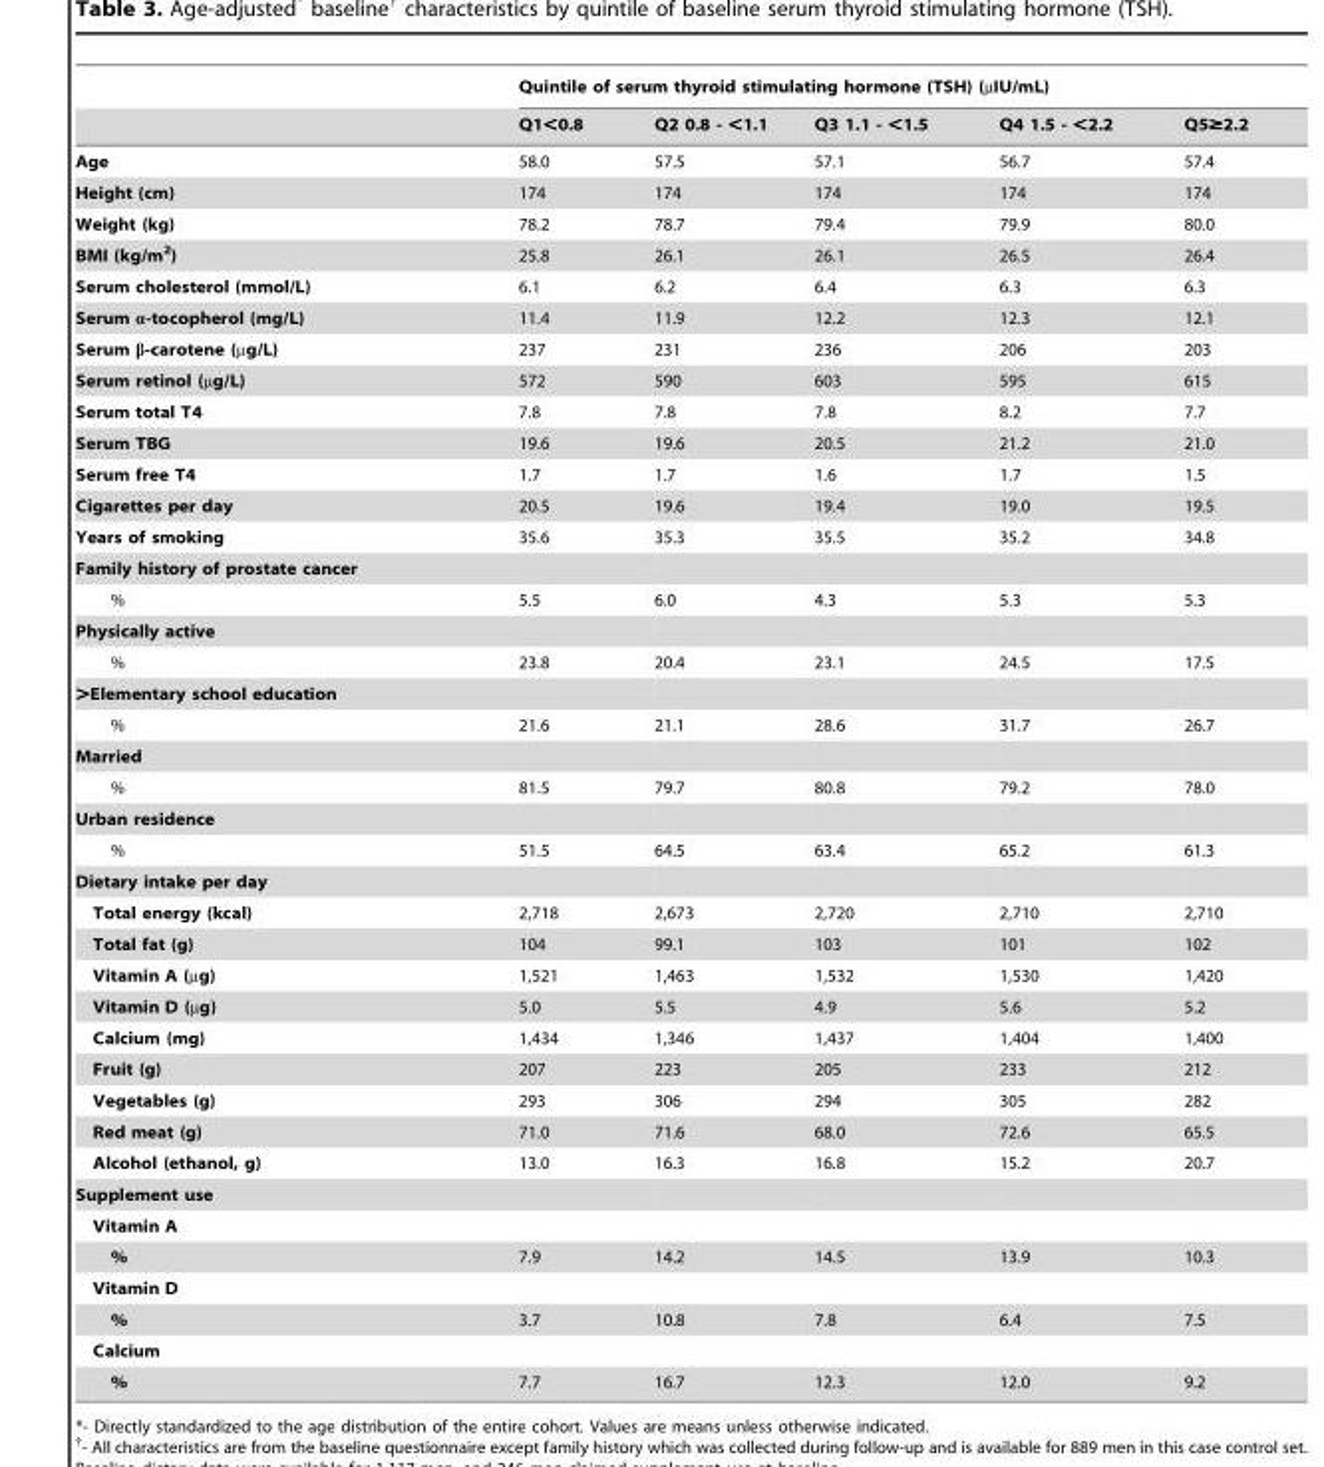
<table><thead><tr><td rowspan="2"></td><td colspan="5">Quintile of serum thyroid stimulating hormone (TSH) (µIU/mL)</td></tr><tr><td>Q1&lt;0.8</td><td>Q2 0.8 - &lt;1.1</td><td>Q3 1.1 - &lt;1.5</td><td>Q4 1.5 - &lt;2.2</td><td>Q5≥2.2</td></tr></thead><tbody><tr><td>Age</td><td>58.0</td><td>57.5</td><td>57.1</td><td>56.7</td><td>57.4</td></tr><tr><td>Height (cm)</td><td>174</td><td>174</td><td>174</td><td>174</td><td>174</td></tr><tr><td>Weight (kg)</td><td>78.2</td><td>78.7</td><td>79.4</td><td>79.9</td><td>80.0</td></tr><tr><td>BMI (kg/m<sup>2</sup>)</td><td>25.8</td><td>26.1</td><td>26.1</td><td>26.5</td><td>26.4</td></tr><tr><td>Serum cholesterol (mmol/L)</td><td>6.1</td><td>6.2</td><td>6.4</td><td>6.3</td><td>6.3</td></tr><tr><td>Serum α-tocopherol (mg/L)</td><td>11.4</td><td>11.9</td><td>12.2</td><td>12.3</td><td>12.1</td></tr><tr><td>Serum β-carotene (µg/L)</td><td>237</td><td>231</td><td>236</td><td>206</td><td>203</td></tr><tr><td>Serum retinol (µg/L)</td><td>572</td><td>590</td><td>603</td><td>595</td><td>615</td></tr><tr><td>Serum total T4</td><td>7.8</td><td>7.8</td><td>7.8</td><td>8.2</td><td>7.7</td></tr><tr><td>Serum TBG</td><td>19.6</td><td>19.6</td><td>20.5</td><td>21.2</td><td>21.0</td></tr><tr><td>Serum free T4</td><td>1.7</td><td>1.7</td><td>1.6</td><td>1.7</td><td>1.5</td></tr><tr><td>Cigarettes per day</td><td>20.5</td><td>19.6</td><td>19.4</td><td>19.0</td><td>19.5</td></tr><tr><td>Years of smoking</td><td>35.6</td><td>35.3</td><td>35.5</td><td>35.2</td><td>34.8</td></tr><tr><td colspan="6">Family history of prostate cancer</td></tr><tr><td>%</td><td>5.5</td><td>6.0</td><td>4.3</td><td>5.3</td><td>5.3</td></tr><tr><td colspan="6">Physically active</td></tr><tr><td>%</td><td>23.8</td><td>20.4</td><td>23.1</td><td>24.5</td><td>17.5</td></tr><tr><td colspan="6">&gt;Elementary school education</td></tr><tr><td>%</td><td>21.6</td><td>21.1</td><td>28.6</td><td>31.7</td><td>26.7</td></tr><tr><td colspan="6">Married</td></tr><tr><td>%</td><td>81.5</td><td>79.7</td><td>80.8</td><td>79.2</td><td>78.0</td></tr><tr><td colspan="6">Urban residence</td></tr><tr><td>%</td><td>51.5</td><td>64.5</td><td>63.4</td><td>65.2</td><td>61.3</td></tr><tr><td colspan="6">Dietary intake per day</td></tr><tr><td>Total energy (kcal)</td><td>2,718</td><td>2,673</td><td>2,720</td><td>2,710</td><td>2,710</td></tr><tr><td>Total fat (g)</td><td>104</td><td>99.1</td><td>103</td><td>101</td><td>102</td></tr><tr><td>Vitamin A (µg)</td><td>1,521</td><td>1,463</td><td>1,532</td><td>1,530</td><td>1,420</td></tr><tr><td>Vitamin D (µg)</td><td>5.0</td><td>5.5</td><td>4.9</td><td>5.6</td><td>5.2</td></tr><tr><td>Calcium (mg)</td><td>1,434</td><td>1,346</td><td>1,437</td><td>1,404</td><td>1,400</td></tr><tr><td>Fruit (g)</td><td>207</td><td>223</td><td>205</td><td>233</td><td>212</td></tr><tr><td>Vegetables (g)</td><td>293</td><td>306</td><td>294</td><td>305</td><td>282</td></tr><tr><td>Red meat (g)</td><td>71.0</td><td>71.6</td><td>68.0</td><td>72.6</td><td>65.5</td></tr><tr><td>Alcohol (ethanol, g)</td><td>13.0</td><td>16.3</td><td>16.8</td><td>15.2</td><td>20.7</td></tr><tr><td colspan="6">Supplement use</td></tr><tr><td colspan="6">Vitamin A</td></tr><tr><td>%</td><td>7.9</td><td>14.2</td><td>14.5</td><td>13.9</td><td>10.3</td></tr><tr><td colspan="6">Vitamin D</td></tr><tr><td>%</td><td>3.7</td><td>10.8</td><td>7.8</td><td>6.4</td><td>7.5</td></tr><tr><td colspan="6">Calcium</td></tr><tr><td>%</td><td>7.7</td><td>16.7</td><td>12.3</td><td>12.0</td><td>9.2</td></tr></tbody></table>